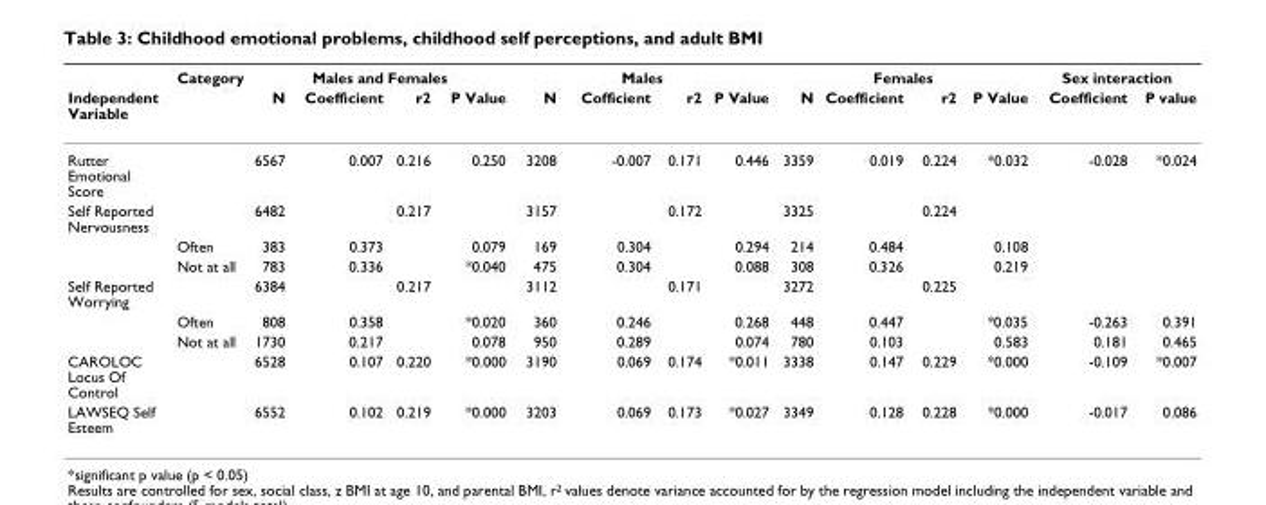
<table><thead><tr><td rowspan="2">Independent Variable</td><td rowspan="2">Category</td><td colspan="4">Males and Females</td><td colspan="4">Males</td><td colspan="4">Females</td><td colspan="2">Sex interaction</td></tr><tr><td>N</td><td>Coefficient</td><td>r2</td><td>P Value</td><td>N</td><td>Cofficient</td><td>r2</td><td>P Value</td><td>N</td><td>Coefficient</td><td>r2</td><td>P Value</td><td>Coefficient</td><td>P value</td></tr></thead><tbody><tr><td>Rutter Emotional Score</td><td></td><td>6567</td><td>0.007</td><td>0.216</td><td>0.250</td><td>3208</td><td>-0.007</td><td>0.171</td><td>0.446</td><td>3359</td><td>0.019</td><td>0.224</td><td>*0.032</td><td>-0.028</td><td>*0.024</td></tr><tr><td rowspan="3">Self Reported Nervousness</td><td></td><td>6482</td><td></td><td>0.217</td><td></td><td>3157</td><td></td><td>0.172</td><td></td><td>3325</td><td></td><td>0.224</td><td></td><td></td><td></td></tr><tr><td>Often</td><td>383</td><td>0.373</td><td></td><td>0.079</td><td>169</td><td>0.304</td><td></td><td>0.294</td><td>214</td><td>0.484</td><td></td><td>0.108</td><td></td><td></td></tr><tr><td>Not at all</td><td>783</td><td>0.336</td><td></td><td>*0.040</td><td>475</td><td>0.304</td><td></td><td>0.088</td><td>308</td><td>0.326</td><td></td><td>0.219</td><td></td><td></td></tr><tr><td rowspan="3">Self Reported Worrying</td><td></td><td>6384</td><td></td><td>0.217</td><td></td><td>3112</td><td></td><td>0.171</td><td></td><td>3272</td><td></td><td>0.225</td><td></td><td></td><td></td></tr><tr><td>Often</td><td>808</td><td>0.358</td><td></td><td>*0.020</td><td>360</td><td>0.246</td><td></td><td>0.268</td><td>448</td><td>0.447</td><td></td><td>*0.035</td><td>-0.263</td><td>0.391</td></tr><tr><td>Not at all</td><td>1730</td><td>0.217</td><td></td><td>0.078</td><td>950</td><td>0.289</td><td></td><td>0.074</td><td>780</td><td>0.103</td><td></td><td>0.583</td><td>0.181</td><td>0.465</td></tr><tr><td>CAROLOC Locus Of Control</td><td></td><td>6528</td><td>0.107</td><td>0.220</td><td>*0.000</td><td>3190</td><td>0.069</td><td>0.174</td><td>*0.011</td><td>3338</td><td>0.147</td><td>0.229</td><td>*0.000</td><td>-0.109</td><td>*0.007</td></tr><tr><td>LAWSEQ Self Esteem</td><td></td><td>6552</td><td>0.102</td><td>0.219</td><td>*0.000</td><td>3203</td><td>0.069</td><td>0.173</td><td>*0.027</td><td>3349</td><td>0.128</td><td>0.228</td><td>*0.000</td><td>-0.017</td><td>0.086</td></tr></tbody></table>